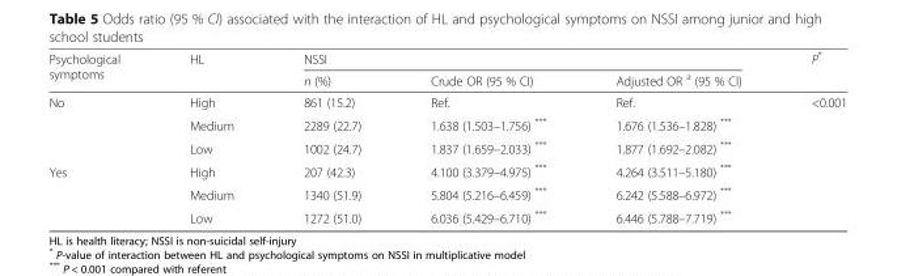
<table><thead><tr><td rowspan="2">Psychological symptoms</td><td rowspan="2">HL</td><td colspan="3">NSSI</td><td rowspan="2">P*</td></tr><tr><td>n (%)</td><td>Crude OR (95 % CI)</td><td>Adjusted OR <sup>a</sup> (95 % CI)</td></tr></thead><tbody><tr><td rowspan="3">No</td><td>High</td><td>861 (15.2)</td><td>Ref.</td><td>Ref.</td><td rowspan="6">&lt;0.001</td></tr><tr><td>Medium</td><td>2289 (22.7)</td><td>1.638 (1.503–1.756) ***</td><td>1.676 (1.536–1.828) ***</td></tr><tr><td>Low</td><td>1002 (24.7)</td><td>1.837 (1.659–2.033) ***</td><td>1.877 (1.692–2.082) ***</td></tr><tr><td rowspan="3">Yes</td><td>High</td><td>207 (42.3)</td><td>4.100 (3.379–4.975) ***</td><td>4.264 (3.511–5.180) ***</td></tr><tr><td>Medium</td><td>1340 (51.9)</td><td>5.804 (5.216–6.459) ***</td><td>6.242 (5.588–6.972) ***</td></tr><tr><td>Low</td><td>1272 (51.0)</td><td>6.036 (5.429–6.710) ***</td><td>6.446 (5.788–7.719) ***</td></tr></tbody></table>